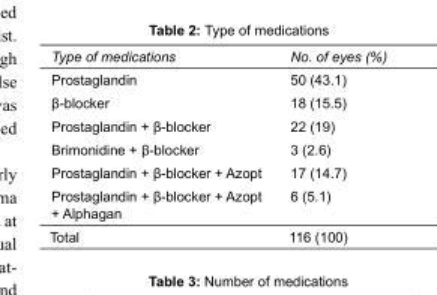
<table><tbody><tr><td>Type of medications</td><td>No. of eyes (%)</td></tr><tr><td>Prostaglandin</td><td>50 (43.1)</td></tr><tr><td>β-blocker</td><td>18 (15.5)</td></tr><tr><td>Prostaglandin + β-blocker</td><td>22 (19)</td></tr><tr><td>Brimonidine + β-blocker</td><td>3 (2.6)</td></tr><tr><td>Prostaglandin + β-blocker + Azopt</td><td>17 (14.7)</td></tr><tr><td>Prostaglandin + β-blocker + Azopt + Alphagan</td><td>6 (5.1)</td></tr><tr><td>Total</td><td>116 (100)</td></tr></tbody></table>